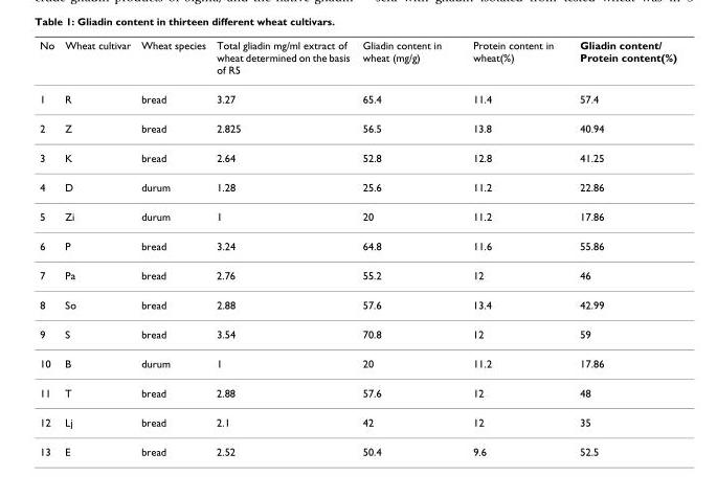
<table><thead><tr><td>No</td><td>Wheat cultivar</td><td>Wheat species</td><td>Total gliadin mg/ml extract of wheat determined on the basis of R5</td><td>Gliadin content in wheat (mg/g)</td><td>Protein content in wheat(%)</td><td>Gliadin content/ Protein content(%)</td></tr></thead><tbody><tr><td>1</td><td>R</td><td>bread</td><td>3.27</td><td>65.4</td><td>11.4</td><td>57.4</td></tr><tr><td>2</td><td>Z</td><td>bread</td><td>2.825</td><td>56.5</td><td>13.8</td><td>40.94</td></tr><tr><td>3</td><td>K</td><td>bread</td><td>2.64</td><td>52.8</td><td>12.8</td><td>41.25</td></tr><tr><td>4</td><td>D</td><td>durum</td><td>1.28</td><td>25.6</td><td>11.2</td><td>22.86</td></tr><tr><td>5</td><td>Zi</td><td>durum</td><td>1</td><td>20</td><td>11.2</td><td>17.86</td></tr><tr><td>6</td><td>P</td><td>bread</td><td>3.24</td><td>64.8</td><td>11.6</td><td>55.86</td></tr><tr><td>7</td><td>Pa</td><td>bread</td><td>2.76</td><td>55.2</td><td>12</td><td>46</td></tr><tr><td>8</td><td>So</td><td>bread</td><td>2.88</td><td>57.6</td><td>13.4</td><td>42.99</td></tr><tr><td>9</td><td>S</td><td>bread</td><td>3.54</td><td>70.8</td><td>12</td><td>59</td></tr><tr><td>10</td><td>B</td><td>durum</td><td>1</td><td>20</td><td>11.2</td><td>17.86</td></tr><tr><td>11</td><td>T</td><td>bread</td><td>2.88</td><td>57.6</td><td>12</td><td>48</td></tr><tr><td>12</td><td>Lj</td><td>bread</td><td>2.1</td><td>42</td><td>12</td><td>35</td></tr><tr><td>13</td><td>E</td><td>bread</td><td>2.52</td><td>50.4</td><td>9.6</td><td>52.5</td></tr></tbody></table>